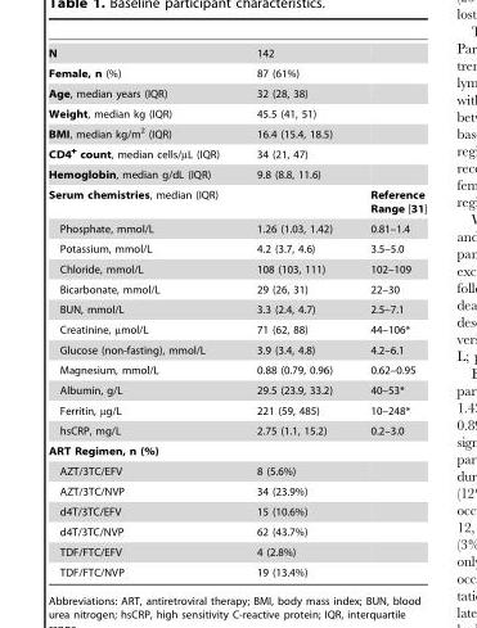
<table><tbody><tr><td>N</td><td>142</td><td></td></tr><tr><td>Female, n (%)</td><td>87 (61%)</td><td></td></tr><tr><td>Age, median years (IQR)</td><td>32 (28, 38)</td><td></td></tr><tr><td>Weight, median kg (IQR)</td><td>45.5 (41, 51)</td><td></td></tr><tr><td>BMI, median kg/m<sup>2</sup> (IQR)</td><td>16.4 (15.4, 18.5)</td><td></td></tr><tr><td>CD4<sup>+</sup> count, median cells/µL (IQR)</td><td>34 (21, 47)</td><td></td></tr><tr><td>Hemoglobin, median g/dL (IQR)</td><td>9.8 (8.8, 11.6)</td><td></td></tr><tr><td>Serum chemistries, median (IQR)</td><td></td><td>Reference Range [31]</td></tr><tr><td>Phosphate, mmol/L</td><td>1.26 (1.03, 1.42)</td><td>0.81–1.4</td></tr><tr><td>Potassium, mmol/L</td><td>4.2 (3.7, 4.6)</td><td>3.5–5.0</td></tr><tr><td>Chloride, mmol/L</td><td>108 (103, 111)</td><td>102–109</td></tr><tr><td>Bicarbonate, mmol/L</td><td>29 (26, 31)</td><td>22–30</td></tr><tr><td>BUN, mmol/L</td><td>3.3 (2.4, 4.7)</td><td>2.5–7.1</td></tr><tr><td>Creatinine, µmol/L</td><td>71 (62, 88)</td><td>44–106*</td></tr><tr><td>Glucose (non-fasting), mmol/L</td><td>3.9 (3.4, 4.8)</td><td>4.2–6.1</td></tr><tr><td>Magnesium, mmol/L</td><td>0.88 (0.79, 0.96)</td><td>0.62–0.95</td></tr><tr><td>Albumin, g/L</td><td>29.5 (23.9, 33.2)</td><td>40–53*</td></tr><tr><td>Ferritin, µg/L</td><td>221 (59, 485)</td><td>10–248*</td></tr><tr><td>hsCRP, mg/L</td><td>2.75 (1.1, 15.2)</td><td>0.2–3.0</td></tr><tr><td colspan="3">ART Regimen, n (%)</td></tr><tr><td>AZT/3TC/EFV</td><td>8 (5.6%)</td><td></td></tr><tr><td>AZT/3TC/NVP</td><td>34 (23.9%)</td><td></td></tr><tr><td>d4T/3TC/EFV</td><td>15 (10.6%)</td><td></td></tr><tr><td>d4T/3TC/NVP</td><td>62 (43.7%)</td><td></td></tr><tr><td>TDF/FTC/EFV</td><td>4 (2.8%)</td><td></td></tr><tr><td>TDF/FTC/NVP</td><td>19 (13.4%)</td><td></td></tr></tbody></table>